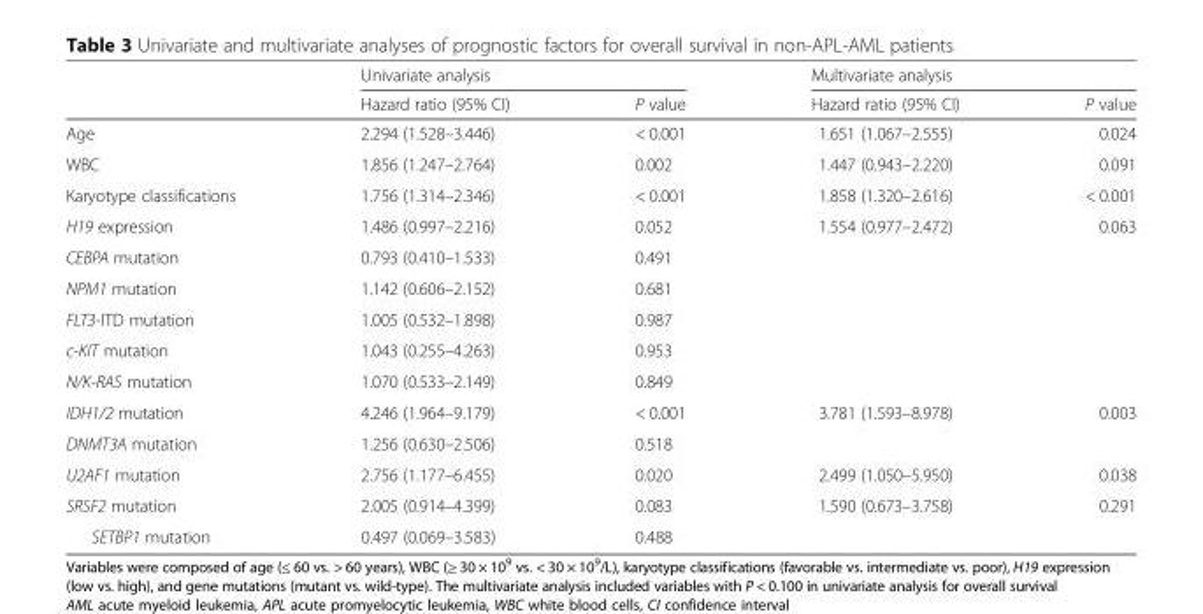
<table><thead><tr><td rowspan="2"></td><td colspan="2">Univariate analysis</td><td colspan="2">Multivariate analysis</td></tr><tr><td>Hazard ratio (95% CI)</td><td>P value</td><td>Hazard ratio (95% CI)</td><td>P value</td></tr></thead><tbody><tr><td>Age</td><td>2.294 (1.528–3.446)</td><td>&lt; 0.001</td><td>1.651 (1.067–2.555)</td><td>0.024</td></tr><tr><td>WBC</td><td>1.856 (1.247–2.764)</td><td>0.002</td><td>1.447 (0.943–2.220)</td><td>0.091</td></tr><tr><td>Karyotype classifications</td><td>1.756 (1.314–2.346)</td><td>&lt; 0.001</td><td>1.858 (1.320–2.616)</td><td>&lt; 0.001</td></tr><tr><td>H19 expression</td><td>1.486 (0.997–2.216)</td><td>0.052</td><td>1.554 (0.977–2.472)</td><td>0.063</td></tr><tr><td>CEBPA mutation</td><td>0.793 (0.410–1.533)</td><td>0.491</td><td></td><td></td></tr><tr><td>NPM1 mutation</td><td>1.142 (0.606–2.152)</td><td>0.681</td><td></td><td></td></tr><tr><td>FLT3-ITD mutation</td><td>1.005 (0.532–1.898)</td><td>0.987</td><td></td><td></td></tr><tr><td>c-KIT mutation</td><td>1.043 (0.255–4.263)</td><td>0.953</td><td></td><td></td></tr><tr><td>N/K-RAS mutation</td><td>1.070 (0.533–2.149)</td><td>0.849</td><td></td><td></td></tr><tr><td>IDH1/2 mutation</td><td>4.246 (1.964–9.179)</td><td>&lt; 0.001</td><td>3.781 (1.593–8.978)</td><td>0.003</td></tr><tr><td>DNMT3A mutation</td><td>1.256 (0.630–2.506)</td><td>0.518</td><td></td><td></td></tr><tr><td>U2AF1 mutation</td><td>2.756 (1.177–6.455)</td><td>0.020</td><td>2.499 (1.050–5.950)</td><td>0.038</td></tr><tr><td>SRSF2 mutation</td><td>2.005 (0.914–4.399)</td><td>0.083</td><td>1.590 (0.673–3.758)</td><td>0.291</td></tr><tr><td>SETBP1 mutation</td><td>0.497 (0.069–3.583)</td><td>0.488</td><td></td><td></td></tr></tbody></table>